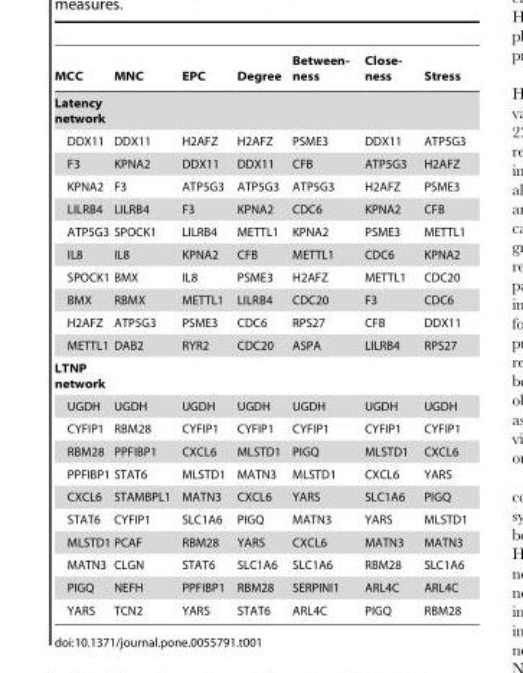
<table><thead><tr><td>MCC</td><td>MNC</td><td>EPC</td><td>Degree</td><td>Between- ness</td><td>Close- ness</td><td>Stress</td></tr></thead><tbody><tr><td colspan="7">Latency network</td></tr><tr><td>DDX11</td><td>DDX11</td><td>H2AFZ</td><td>H2AFZ</td><td>PSME3</td><td>DDX11</td><td>ATP5G3</td></tr><tr><td>F3</td><td>KPNA2</td><td>DDX11</td><td>DDX11</td><td>CFB</td><td>ATP5G3</td><td>H2AFZ</td></tr><tr><td>KPNA2</td><td>F3</td><td>ATP5G3</td><td>ATP5G3</td><td>ATP5G3</td><td>H2AFZ</td><td>PSME3</td></tr><tr><td>LILRB4</td><td>LILRB4</td><td>F3</td><td>KPNA2</td><td>CDC6</td><td>KPNA2</td><td>CFB</td></tr><tr><td>ATP5G3</td><td>SPOCK1</td><td>LILRB4</td><td>METTL1</td><td>KPNA2</td><td>PSME3</td><td>METTL1</td></tr><tr><td>IL8</td><td>IL8</td><td>KPNA2</td><td>CFB</td><td>METTL1</td><td>CDC6</td><td>KPNA2</td></tr><tr><td>SPOCK1</td><td>BMX</td><td>IL8</td><td>PSME3</td><td>H2AFZ</td><td>METTL1</td><td>CDC20</td></tr><tr><td>BMX</td><td>RBMX</td><td>METTL1</td><td>LILRB4</td><td>CDC20</td><td>F3</td><td>CDC6</td></tr><tr><td>H2AFZ</td><td>ATP5G3</td><td>PSME3</td><td>CDC6</td><td>RPS27</td><td>CFB</td><td>DDX11</td></tr><tr><td>METTL1</td><td>DAB2</td><td>RYR2</td><td>CDC20</td><td>ASPA</td><td>LILRB4</td><td>RPS27</td></tr><tr><td colspan="7">LTNP network</td></tr><tr><td>UGDH</td><td>UGDH</td><td>UGDH</td><td>UGDH</td><td>UGDH</td><td>UGDH</td><td>UGDH</td></tr><tr><td>CYFIP1</td><td>RBM28</td><td>CYFIP1</td><td>CYFIP1</td><td>CYFIP1</td><td>CYFIP1</td><td>CYFIP1</td></tr><tr><td>RBM28</td><td>PPFIBP1</td><td>CXCL6</td><td>MLSTD1</td><td>PIGQ</td><td>MLSTD1</td><td>CXCL6</td></tr><tr><td>PPFIBP1</td><td>STAT6</td><td>MLSTD1</td><td>MATN3</td><td>MLSTD1</td><td>CXCL6</td><td>YARS</td></tr><tr><td>CXCL6</td><td>STAMBPL1</td><td>MATN3</td><td>CXCL6</td><td>YARS</td><td>SLC1A6</td><td>PIGQ</td></tr><tr><td>STAT6</td><td>CYFIP1</td><td>SLC1A6</td><td>PIGQ</td><td>MATN3</td><td>YARS</td><td>MLSTD1</td></tr><tr><td>MLSTD1</td><td>PCAF</td><td>RBM28</td><td>YARS</td><td>CXCL6</td><td>MATN3</td><td>MATN3</td></tr><tr><td>MATN3</td><td>CLGN</td><td>STAT6</td><td>SLC1A6</td><td>SLC1A6</td><td>RBM28</td><td>SLC1A6</td></tr><tr><td>PIGQ</td><td>NEFH</td><td>PPFIBP1</td><td>RBM28</td><td>SERPINI1</td><td>ARL4C</td><td>ARL4C</td></tr><tr><td>YARS</td><td>TCN2</td><td>YARS</td><td>STAT6</td><td>ARL4C</td><td>PIGQ</td><td>RBM28</td></tr></tbody></table>